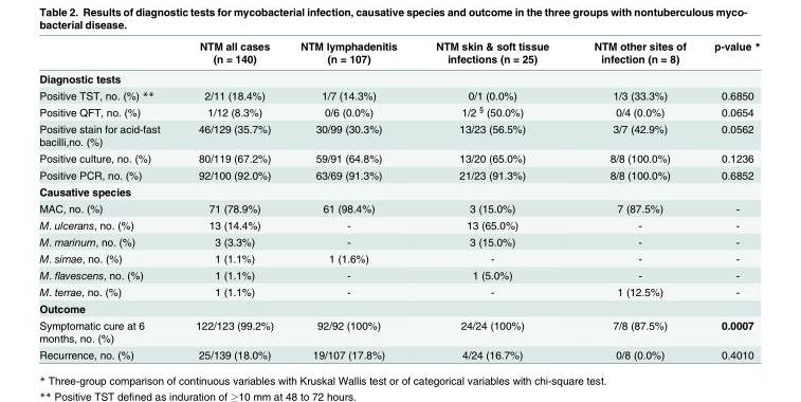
<table><thead><tr><td></td><td>NTM all cases (n = 140)</td><td>NTM lymphadenitis (n = 107)</td><td>NTM skin &amp; soft tissue infections (n = 25)</td><td>NTM other sites of infection (n = 8)</td><td>p-value *</td></tr></thead><tbody><tr><td colspan="6">Diagnostic tests</td></tr><tr><td>Positive TST, no. (%) **</td><td>2/11 (18.4%)</td><td>1/7 (14.3%)</td><td>0/1 (0.0%)</td><td>1/3 (33.3%)</td><td>0.6850</td></tr><tr><td>Positive QFT, no. (%)</td><td>1/12 (8.3%)</td><td>0/6 (0.0%)</td><td>1/2 <sup>§</sup> (50.0%)</td><td>0/4 (0.0%)</td><td>0.0654</td></tr><tr><td>Positive stain for acid-fast bacilli,no. (%)</td><td>46/129 (35.7%)</td><td>30/99 (30.3%)</td><td>13/23 (56.5%)</td><td>3/7 (42.9%)</td><td>0.0562</td></tr><tr><td>Positive culture, no. (%)</td><td>80/119 (67.2%)</td><td>59/91 (64.8%)</td><td>13/20 (65.0%)</td><td>8/8 (100.0%)</td><td>0.1236</td></tr><tr><td>Positive PCR, no. (%)</td><td>92/100 (92.0%)</td><td>63/69 (91.3%)</td><td>21/23 (91.3%)</td><td>8/8 (100.0%)</td><td>0.6852</td></tr><tr><td colspan="6">Causative species</td></tr><tr><td>MAC, no. (%)</td><td>71 (78.9%)</td><td>61 (98.4%)</td><td>3 (15.0%)</td><td>7 (87.5%)</td><td>-</td></tr><tr><td>M. ulcerans, no. (%)</td><td>13 (14.4%)</td><td>-</td><td>13 (65.0%)</td><td>-</td><td>-</td></tr><tr><td>M. marinum, no. (%)</td><td>3 (3.3%)</td><td>-</td><td>3 (15.0%)</td><td>-</td><td>-</td></tr><tr><td>M. simae, no. (%)</td><td>1 (1.1%)</td><td>1 (1.6%)</td><td>-</td><td>-</td><td>-</td></tr><tr><td>M. flavescens, no. (%)</td><td>1 (1.1%)</td><td>-</td><td>1 (5.0%)</td><td>-</td><td>-</td></tr><tr><td>M. terrae, no. (%)</td><td>1 (1.1%)</td><td>-</td><td>-</td><td>1 (12.5%)</td><td>-</td></tr><tr><td colspan="6">Outcome</td></tr><tr><td>Symptomatic cure at 6 months, no. (%)</td><td>122/123 (99.2%)</td><td>92/92 (100%)</td><td>24/24 (100%)</td><td>7/8 (87.5%)</td><td>0.0007</td></tr><tr><td>Recurrence, no. (%)</td><td>25/139 (18.0%)</td><td>19/107 (17.8%)</td><td>4/24 (16.7%)</td><td>0/8 (0.0%)</td><td>0.4010</td></tr></tbody></table>